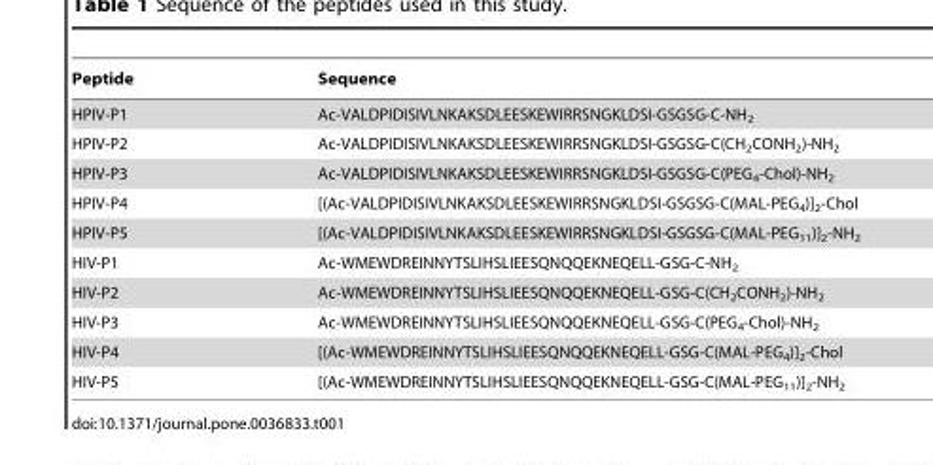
<table><thead><tr><td>Peptide</td><td>Sequence</td></tr></thead><tbody><tr><td>HPIV-P1</td><td>Ac-VALDPIDISIVLNKAKSDLEESKEWIRRSNGKLDSI-GSGSG-C-NH<sub>2</sub></td></tr><tr><td>HPIV-P2</td><td>Ac-VALDPIDISIVLNKAKSDLEESKEWIRRSNGKLDSI-GSGSG-C(CH<sub>2</sub>CONH<sub>2</sub>)-NH<sub>2</sub></td></tr><tr><td>HPIV-P3</td><td>Ac-VALDPIDISIVLNKAKSDLEESKEWIRRSNGKLDSI-GSGSG-C(PEG<sub>4</sub>-Chol)-NH<sub>2</sub></td></tr><tr><td>HPIV-P4</td><td>[(Ac-VALDPIDISIVLNKAKSDLEESKEWIRRSNGKLDSI-GSGSG-C(MAL-PEG<sub>4</sub>)]<sub>2</sub>-Chol</td></tr><tr><td>HPIV-P5</td><td>[(Ac-VALDPIDISIVLNKAKSDLEESKEWIRRSNGKLDSI-GSGSG-C(MAL-PEG<sub>11</sub>)]<sub>2</sub>-NH<sub>2</sub></td></tr><tr><td>HIV-P1</td><td>Ac-WMEWDREINNYTSLIHSLIEESQNQQEKNEQELL-GSG-C-NH<sub>2</sub></td></tr><tr><td>HIV-P2</td><td>Ac-WMEWDREINNYTSLIHSLIEESQNQQEKNEQELL-GSG-C(CH<sub>2</sub>CONH<sub>2</sub>)-NH<sub>2</sub></td></tr><tr><td>HIV-P3</td><td>Ac-WMEWDREINNYTSLIHSLIEESQNQQEKNEQELL-GSG-C(PEG<sub>4</sub>-Chol)-NH<sub>2</sub></td></tr><tr><td>HIV-P4</td><td>[(Ac-WMEWDREINNYTSLIHSLIEESQNQQEKNEQELL-GSG-C(MAL-PEG<sub>4</sub>)]<sub>2</sub>-Chol</td></tr><tr><td>HIV-P5</td><td>[(Ac-WMEWDREINNYTSLIHSLIEESQNQQEKNEQELL-GSG-C(MAL-PEG<sub>11</sub>)]<sub>2</sub>-NH<sub>2</sub></td></tr></tbody></table>